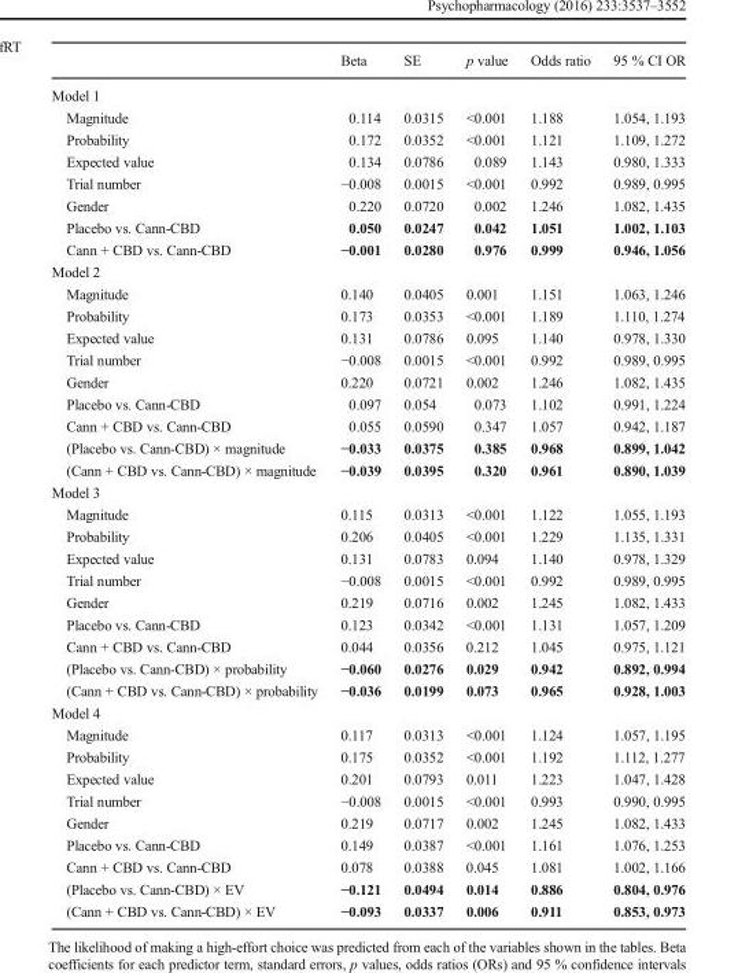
<table><thead><tr><td></td><td>Beta</td><td>SE</td><td>p value</td><td>Odds ratio</td><td>95 % CI OR</td></tr></thead><tbody><tr><td colspan="6">Model 1</td></tr><tr><td>Magnitude</td><td>0.114</td><td>0.0315</td><td>&lt;0.001</td><td>1.188</td><td>1.054, 1.193</td></tr><tr><td>Probability</td><td>0.172</td><td>0.0352</td><td>&lt;0.001</td><td>1.121</td><td>1.109, 1.272</td></tr><tr><td>Expected value</td><td>0.134</td><td>0.0786</td><td>0.089</td><td>1.143</td><td>0.980, 1.333</td></tr><tr><td>Trial number</td><td>−0.008</td><td>0.0015</td><td>&lt;0.001</td><td>0.992</td><td>0.989, 0.995</td></tr><tr><td>Gender</td><td>0.220</td><td>0.0720</td><td>0.002</td><td>1.246</td><td>1.082, 1.435</td></tr><tr><td>Placebo vs. Cann-CBD</td><td>0.050</td><td>0.0247</td><td>0.042</td><td>1.051</td><td>1.002, 1.103</td></tr><tr><td>Cann + CBD vs. Cann-CBD</td><td>−0.001</td><td>0.0280</td><td>0.976</td><td>0.999</td><td>0.946, 1.056</td></tr><tr><td colspan="6">Model 2</td></tr><tr><td>Magnitude</td><td>0.140</td><td>0.0405</td><td>0.001</td><td>1.151</td><td>1.063, 1.246</td></tr><tr><td>Probability</td><td>0.173</td><td>0.0353</td><td>&lt;0.001</td><td>1.189</td><td>1.110, 1.274</td></tr><tr><td>Expected value</td><td>0.131</td><td>0.0786</td><td>0.095</td><td>1.140</td><td>0.978, 1.330</td></tr><tr><td>Trial number</td><td>−0.008</td><td>0.0015</td><td>&lt;0.001</td><td>0.992</td><td>0.989, 0.995</td></tr><tr><td>Gender</td><td>0.220</td><td>0.0721</td><td>0.002</td><td>1.246</td><td>1.082, 1.435</td></tr><tr><td>Placebo vs. Cann-CBD</td><td>0.097</td><td>0.054</td><td>0.073</td><td>1.102</td><td>0.991, 1.224</td></tr><tr><td>Cann + CBD vs. Cann-CBD</td><td>0.055</td><td>0.0590</td><td>0.347</td><td>1.057</td><td>0.942, 1.187</td></tr><tr><td>(Placebo vs. Cann-CBD) × magnitude</td><td>−0.033</td><td>0.0375</td><td>0.385</td><td>0.968</td><td>0.899, 1.042</td></tr><tr><td>(Cann + CBD vs. Cann-CBD) × magnitude</td><td>−0.039</td><td>0.0395</td><td>0.320</td><td>0.961</td><td>0.890, 1.039</td></tr><tr><td colspan="6">Model 3</td></tr><tr><td>Magnitude</td><td>0.115</td><td>0.0313</td><td>&lt;0.001</td><td>1.122</td><td>1.055, 1.193</td></tr><tr><td>Probability</td><td>0.206</td><td>0.0405</td><td>&lt;0.001</td><td>1.229</td><td>1.135, 1.331</td></tr><tr><td>Expected value</td><td>0.131</td><td>0.0783</td><td>0.094</td><td>1.140</td><td>0.978, 1.329</td></tr><tr><td>Trial number</td><td>−0.008</td><td>0.0015</td><td>&lt;0.001</td><td>0.992</td><td>0.989, 0.995</td></tr><tr><td>Gender</td><td>0.219</td><td>0.0716</td><td>0.002</td><td>1.245</td><td>1.082, 1.433</td></tr><tr><td>Placebo vs. Cann-CBD</td><td>0.123</td><td>0.0342</td><td>&lt;0.001</td><td>1.131</td><td>1.057, 1.209</td></tr><tr><td>Cann + CBD vs. Cann-CBD</td><td>0.044</td><td>0.0356</td><td>0.212</td><td>1.045</td><td>0.975, 1.121</td></tr><tr><td>(Placebo vs. Cann-CBD) × probability</td><td>−0.060</td><td>0.0276</td><td>0.029</td><td>0.942</td><td>0.892, 0.994</td></tr><tr><td>(Cann + CBD vs. Cann-CBD) × probability</td><td>−0.036</td><td>0.0199</td><td>0.073</td><td>0.965</td><td>0.928, 1.003</td></tr><tr><td colspan="6">Model 4</td></tr><tr><td>Magnitude</td><td>0.117</td><td>0.0313</td><td>&lt;0.001</td><td>1.124</td><td>1.057, 1.195</td></tr><tr><td>Probability</td><td>0.175</td><td>0.0352</td><td>&lt;0.001</td><td>1.192</td><td>1.112, 1.277</td></tr><tr><td>Expected value</td><td>0.201</td><td>0.0793</td><td>0.011</td><td>1.223</td><td>1.047, 1.428</td></tr><tr><td>Trial number</td><td>−0.008</td><td>0.0015</td><td>&lt;0.001</td><td>0.993</td><td>0.990, 0.995</td></tr><tr><td>Gender</td><td>0.219</td><td>0.0717</td><td>0.002</td><td>1.245</td><td>1.082, 1.433</td></tr><tr><td>Placebo vs. Cann-CBD</td><td>0.149</td><td>0.0387</td><td>&lt;0.001</td><td>1.161</td><td>1.076, 1.253</td></tr><tr><td>Cann + CBD vs. Cann-CBD</td><td>0.078</td><td>0.0388</td><td>0.045</td><td>1.081</td><td>1.002, 1.166</td></tr><tr><td>(Placebo vs. Cann-CBD) × EV</td><td>−0.121</td><td>0.0494</td><td>0.014</td><td>0.886</td><td>0.804, 0.976</td></tr><tr><td>(Cann + CBD vs. Cann-CBD) × EV</td><td>−0.093</td><td>0.0337</td><td>0.006</td><td>0.911</td><td>0.853, 0.973</td></tr></tbody></table>